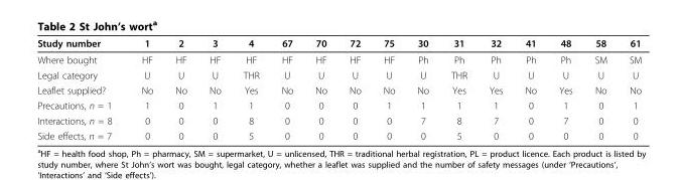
<table><thead><tr><td>Study number</td><td>1</td><td>2</td><td>3</td><td>4</td><td>67</td><td>70</td><td>72</td><td>75</td><td>30</td><td>31</td><td>32</td><td>41</td><td>48</td><td>58</td><td>61</td></tr></thead><tbody><tr><td>Where bought</td><td>HF</td><td>HF</td><td>HF</td><td>HF</td><td>HF</td><td>HF</td><td>HF</td><td>HF</td><td>Ph</td><td>Ph</td><td>Ph</td><td>Ph</td><td>Ph</td><td>SM</td><td>SM</td></tr><tr><td>Legal category</td><td>U</td><td>U</td><td>U</td><td>THR</td><td>U</td><td>U</td><td>U</td><td>U</td><td>U</td><td>THR</td><td>U</td><td>U</td><td>U</td><td>U</td><td>U</td></tr><tr><td>Leaflet supplied?</td><td>No</td><td>No</td><td>No</td><td>Yes</td><td>No</td><td>No</td><td>No</td><td>No</td><td>No</td><td>Yes</td><td>Yes</td><td>No</td><td>Yes</td><td>No</td><td>No</td></tr><tr><td>Precautions, n = 1</td><td>1</td><td>0</td><td>1</td><td>1</td><td>0</td><td>0</td><td>0</td><td>1</td><td>1</td><td>1</td><td>1</td><td>0</td><td>1</td><td>0</td><td>1</td></tr><tr><td>Interactions, n = 8</td><td>0</td><td>0</td><td>0</td><td>8</td><td>0</td><td>0</td><td>0</td><td>0</td><td>7</td><td>8</td><td>7</td><td>0</td><td>7</td><td>0</td><td>0</td></tr><tr><td>Side effects, n = 7</td><td>0</td><td>0</td><td>0</td><td>5</td><td>0</td><td>0</td><td>0</td><td>0</td><td>0</td><td>5</td><td>0</td><td>0</td><td>0</td><td>0</td><td>0</td></tr></tbody></table>